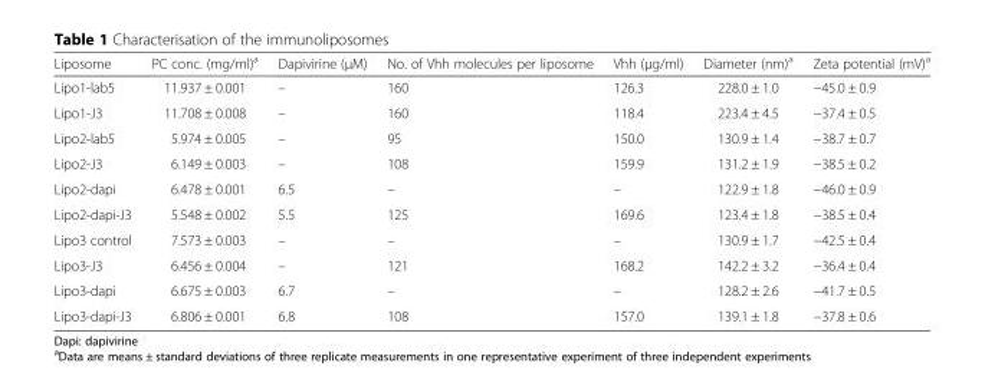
<table><thead><tr><td>Liposome</td><td>PC conc. (mg/ml)<sup>a</sup></td><td>Dapivirine (μM)</td><td>No. of Vhh molecules per liposome</td><td>Vhh (μg/ml)</td><td>Diameter (nm)<sup>a</sup></td><td>Zeta potential (mV)<sup>a</sup></td></tr></thead><tbody><tr><td>Lipo1-lab5</td><td>11.937 ± 0.001</td><td>–</td><td>160</td><td>126.3</td><td>228.0 ± 1.0</td><td>−45.0 ± 0.9</td></tr><tr><td>Lipo1-J3</td><td>11.708 ± 0.008</td><td>–</td><td>160</td><td>118.4</td><td>223.4 ± 4.5</td><td>−37.4 ± 0.5</td></tr><tr><td>Lipo2-lab5</td><td>5.974 ± 0.005</td><td>–</td><td>95</td><td>150.0</td><td>130.9 ± 1.4</td><td>−38.7 ± 0.7</td></tr><tr><td>Lipo2-J3</td><td>6.149 ± 0.003</td><td>–</td><td>108</td><td>159.9</td><td>131.2 ± 1.9</td><td>−38.5 ± 0.2</td></tr><tr><td>Lipo2-dapi</td><td>6.478 ± 0.001</td><td>6.5</td><td>–</td><td>–</td><td>122.9 ± 1.8</td><td>−46.0 ± 0.9</td></tr><tr><td>Lipo2-dapi-J3</td><td>5.548 ± 0.002</td><td>5.5</td><td>125</td><td>169.6</td><td>123.4 ± 1.8</td><td>−38.5 ± 0.4</td></tr><tr><td>Lipo3 control</td><td>7.573 ± 0.003</td><td>–</td><td>–</td><td>–</td><td>130.9 ± 1.7</td><td>−42.5 ± 0.4</td></tr><tr><td>Lipo3-J3</td><td>6.456 ± 0.004</td><td>–</td><td>121</td><td>168.2</td><td>142.2 ± 3.2</td><td>−36.4 ± 0.4</td></tr><tr><td>Lipo3-dapi</td><td>6.675 ± 0.003</td><td>6.7</td><td>–</td><td>–</td><td>128.2 ± 2.6</td><td>−41.7 ± 0.5</td></tr><tr><td>Lipo3-dapi-J3</td><td>6.806 ± 0.001</td><td>6.8</td><td>108</td><td>157.0</td><td>139.1 ± 1.8</td><td>−37.8 ± 0.6</td></tr></tbody></table>